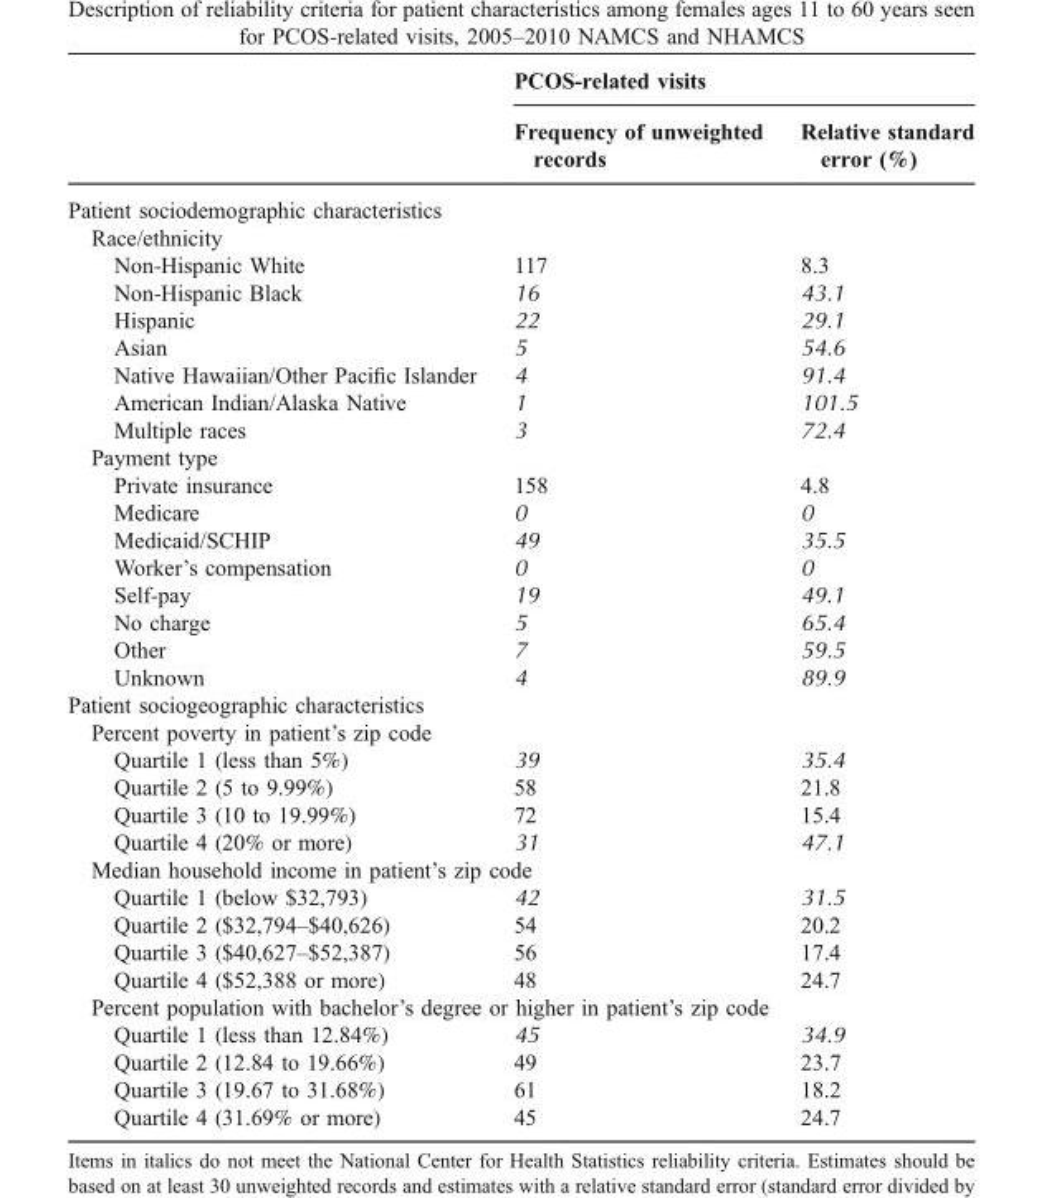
<table><thead><tr><td rowspan="2"></td><td colspan="2">PCOS-related visits</td></tr><tr><td>Frequency of unweighted records</td><td>Relative standard error (%)</td></tr></thead><tbody><tr><td colspan="3">Patient sociodemographic characteristics</td></tr><tr><td colspan="3">Race/ethnicity</td></tr><tr><td>Non-Hispanic White</td><td>117</td><td>8.3</td></tr><tr><td>Non-Hispanic Black</td><td>16</td><td>43.1</td></tr><tr><td>Hispanic</td><td>22</td><td>29.1</td></tr><tr><td>Asian</td><td>5</td><td>54.6</td></tr><tr><td>Native Hawaiian/Other Pacific Islander</td><td>4</td><td>91.4</td></tr><tr><td>American Indian/Alaska Native</td><td>1</td><td>101.5</td></tr><tr><td>Multiple races</td><td>3</td><td>72.4</td></tr><tr><td colspan="3">Payment type</td></tr><tr><td>Private insurance</td><td>158</td><td>4.8</td></tr><tr><td>Medicare</td><td>0</td><td>0</td></tr><tr><td>Medicaid/SCHIP</td><td>49</td><td>35.5</td></tr><tr><td>Worker’s compensation</td><td>0</td><td>0</td></tr><tr><td>Self-pay</td><td>19</td><td>49.1</td></tr><tr><td>No charge</td><td>5</td><td>65.4</td></tr><tr><td>Other</td><td>7</td><td>59.5</td></tr><tr><td>Unknown</td><td>4</td><td>89.9</td></tr><tr><td colspan="3">Patient sociogeographic characteristics</td></tr><tr><td colspan="3">Percent poverty in patient’s zip code</td></tr><tr><td>Quartile 1 (less than 5%)</td><td>39</td><td>35.4</td></tr><tr><td>Quartile 2 (5 to 9.99%)</td><td>58</td><td>21.8</td></tr><tr><td>Quartile 3 (10 to 19.99%)</td><td>72</td><td>15.4</td></tr><tr><td>Quartile 4 (20% or more)</td><td>31</td><td>47.1</td></tr><tr><td colspan="3">Median household income in patient’s zip code</td></tr><tr><td>Quartile 1 (below $32,793)</td><td>42</td><td>31.5</td></tr><tr><td>Quartile 2 ($32,794–$40,626)</td><td>54</td><td>20.2</td></tr><tr><td>Quartile 3 ($40,627–$52,387)</td><td>56</td><td>17.4</td></tr><tr><td>Quartile 4 ($52,388 or more)</td><td>48</td><td>24.7</td></tr><tr><td colspan="3">Percent population with bachelor’s degree or higher in patient’s zip code</td></tr><tr><td>Quartile 1 (less than 12.84%)</td><td>45</td><td>34.9</td></tr><tr><td>Quartile 2 (12.84 to 19.66%)</td><td>49</td><td>23.7</td></tr><tr><td>Quartile 3 (19.67 to 31.68%)</td><td>61</td><td>18.2</td></tr><tr><td>Quartile 4 (31.69% or more)</td><td>45</td><td>24.7</td></tr></tbody></table>